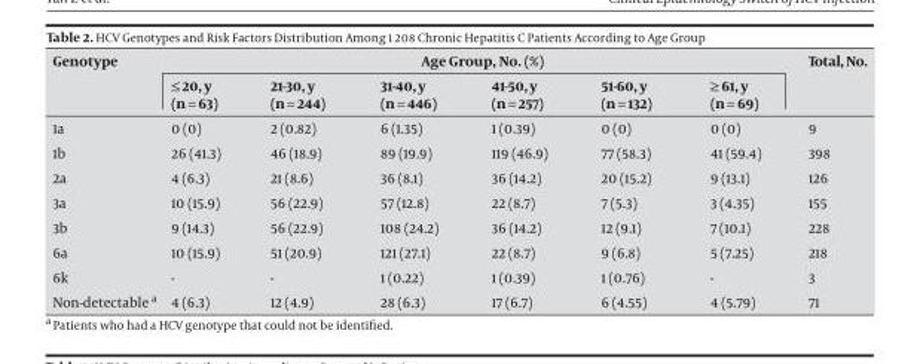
<table><thead><tr><td rowspan="2">Genotype</td><td colspan="6">Age Group, No. (%)</td><td rowspan="2">Total, No.</td></tr><tr><td>≤ 20, y (n = 63)</td><td>21-30, y (n = 244)</td><td>31-40, y (n = 446)</td><td>41-50, y (n = 257)</td><td>51-60, y (n = 132)</td><td>≥ 61, y (n = 69)</td></tr></thead><tbody><tr><td>1a</td><td>0 (0)</td><td>2 (0.82)</td><td>6 (1.35)</td><td>1 (0.39)</td><td>0 (0)</td><td>0 (0)</td><td>9</td></tr><tr><td>1b</td><td>26 (41.3)</td><td>46 (18.9)</td><td>89 (19.9)</td><td>119 (46.9)</td><td>77 (58.3)</td><td>41 (59.4)</td><td>398</td></tr><tr><td>2a</td><td>4 (6.3)</td><td>21 (8.6)</td><td>36 (8.1)</td><td>36 (14.2)</td><td>20 (15.2)</td><td>9 (13.1)</td><td>126</td></tr><tr><td>3a</td><td>10 (15.9)</td><td>56 (22.9)</td><td>57 (12.8)</td><td>22 (8.7)</td><td>7 (5.3)</td><td>3 (4.35)</td><td>155</td></tr><tr><td>3b</td><td>9 (14.3)</td><td>56 (22.9)</td><td>108 (24.2)</td><td>36 (14.2)</td><td>12 (9.1)</td><td>7 (10.1)</td><td>228</td></tr><tr><td>6a</td><td>10 (15.9)</td><td>51 (20.9)</td><td>121 (27.1)</td><td>22 (8.7)</td><td>9 (6.8)</td><td>5 (7.25)</td><td>218</td></tr><tr><td>6k</td><td>-</td><td>-</td><td>1 (0.22)</td><td>1 (0.39)</td><td>1 (0.76)</td><td>-</td><td>3</td></tr><tr><td>Non-detectable a</td><td>4 (6.3)</td><td>12 (4.9)</td><td>28 (6.3)</td><td>17 (6.7)</td><td>6 (4.55)</td><td>4 (5.79)</td><td>71</td></tr></tbody></table>